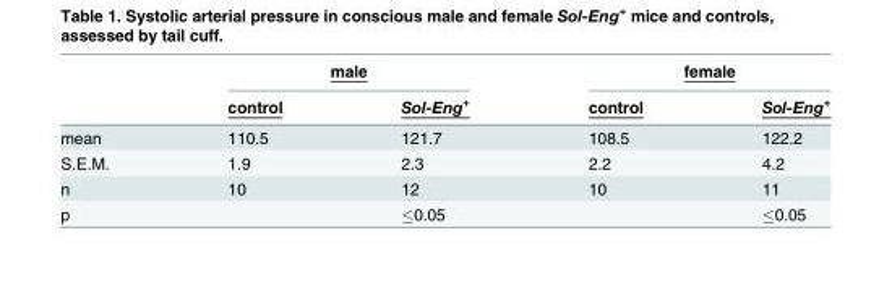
<table><thead><tr><td rowspan="2"></td><td colspan="2">male</td><td colspan="2">female</td></tr><tr><td>control</td><td>Sol-Eng<sup>+</sup></td><td>control</td><td>Sol-Eng<sup>+</sup></td></tr></thead><tbody><tr><td>mean</td><td>110.5</td><td>121.7</td><td>108.5</td><td>122.2</td></tr><tr><td>S.E.M.</td><td>1.9</td><td>2.3</td><td>2.2</td><td>4.2</td></tr><tr><td>n</td><td>10</td><td>12</td><td>10</td><td>11</td></tr><tr><td>p</td><td></td><td>≤0.05</td><td></td><td>≤0.05</td></tr></tbody></table>